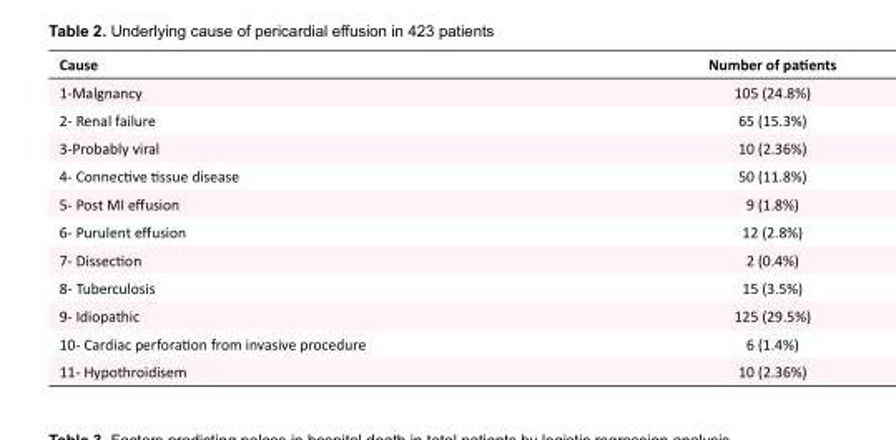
<table><tbody><tr><td>Cause</td><td>Number of patients</td></tr><tr><td>1-Malgnancy</td><td>105 (24.8%)</td></tr><tr><td>2- Renal failure</td><td>65 (15.3%)</td></tr><tr><td>3-Probably viral</td><td>10 (2.36%)</td></tr><tr><td>4- Connective tissue disease</td><td>50 (11.8%)</td></tr><tr><td>5- Post MI effusion</td><td>9 (1.8%)</td></tr><tr><td>6- Purulent effusion</td><td>12 (2.8%)</td></tr><tr><td>7- Dissection</td><td>2 (0.4%)</td></tr><tr><td>8- Tuberculosis</td><td>15 (3.5%)</td></tr><tr><td>9- Idiopathic</td><td>125 (29.5%)</td></tr><tr><td>10- Cardiac perforation from invasive procedure</td><td>6 (1.4%)</td></tr><tr><td>11- Hypothroidisem</td><td>10 (2.36%)</td></tr></tbody></table>